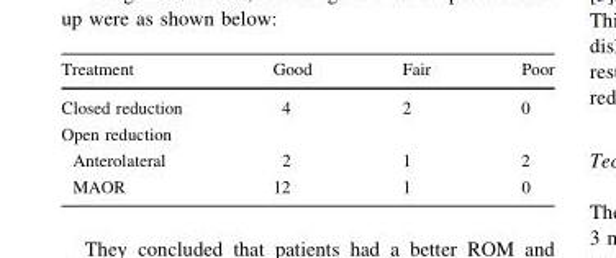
<table><thead><tr><td>Treatment</td><td>Good</td><td>Fair</td><td>Poor</td></tr></thead><tbody><tr><td>Closed reduction</td><td>4</td><td>2</td><td>0</td></tr><tr><td colspan="4">Open reduction</td></tr><tr><td>Anterolateral</td><td>2</td><td>1</td><td>2</td></tr><tr><td>MAOR</td><td>12</td><td>1</td><td>0</td></tr></tbody></table>